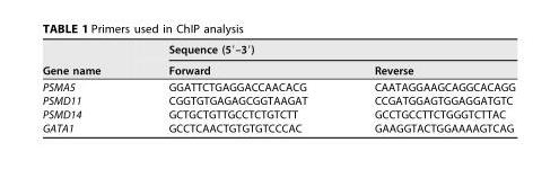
<table><thead><tr><td rowspan="2">Gene name</td><td colspan="2">Sequence (5=–3=)</td></tr><tr><td>Forward</td><td>Reverse</td></tr></thead><tbody><tr><td>PSMA5</td><td>GGATTCTGAGGACCAACACG</td><td>CAATAGGAAGCAGGCACAGG</td></tr><tr><td>PSMD11</td><td>CGGTGTGAGAGCGGTAAGAT</td><td>CCGATGGAGTGGAGGATGTC</td></tr><tr><td>PSMD14</td><td>GCTGCTGTTGCCTCTGTCTT</td><td>GCCTGCCTTCTGGGTCTTAC</td></tr><tr><td>GATA1</td><td>GCCTCAACTGTGTGTCCCAC</td><td>GAAGGTACTGGAAAAGTCAG</td></tr></tbody></table>